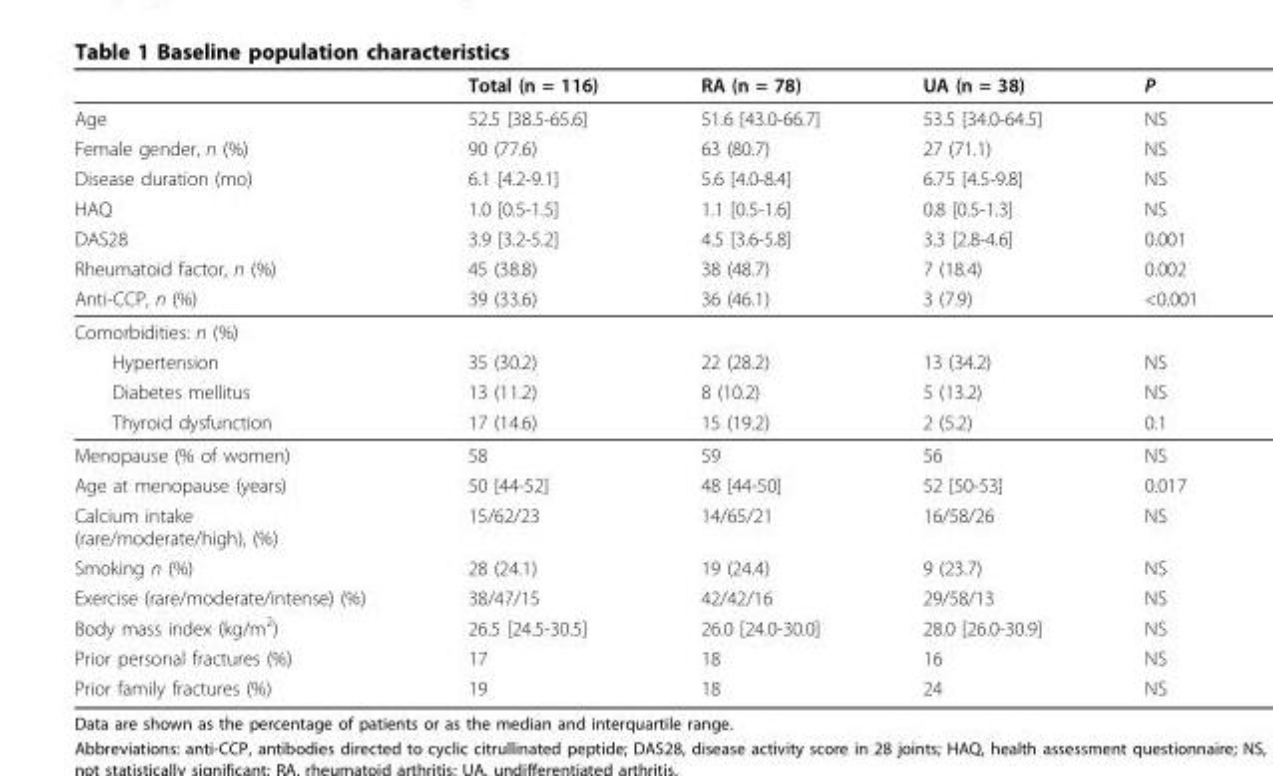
<table><thead><tr><td></td><td>Total (n = 116)</td><td>RA (n = 78)</td><td>UA (n = 38)</td><td>P</td></tr></thead><tbody><tr><td>Age</td><td>52.5 [38.5-65.6]</td><td>51.6 [43.0-66.7]</td><td>53.5 [34.0-64.5]</td><td>NS</td></tr><tr><td>Female gender, n (%)</td><td>90 (77.6)</td><td>63 (80.7)</td><td>27 (71.1)</td><td>NS</td></tr><tr><td>Disease duration (mo)</td><td>6.1 [4.2-9.1]</td><td>5.6 [4.0-8.4]</td><td>6.75 [4.5-9.8]</td><td>NS</td></tr><tr><td>HAQ</td><td>1.0 [0.5-1.5]</td><td>1.1 [0.5-1.6]</td><td>0.8 [0.5-1.3]</td><td>NS</td></tr><tr><td>DAS28</td><td>3.9 [3.2-5.2]</td><td>4.5 [3.6-5.8]</td><td>3.3 [2.8-4.6]</td><td>0.001</td></tr><tr><td>Rheumatoid factor, n (%)</td><td>45 (38.8)</td><td>38 (48.7)</td><td>7 (18.4)</td><td>0.002</td></tr><tr><td>Anti-CCP, n (%)</td><td>39 (33.6)</td><td>36 (46.1)</td><td>3 (7.9)</td><td>&lt;0.001</td></tr><tr><td colspan="5">Comorbidities: n (%)</td></tr><tr><td>Hypertension</td><td>35 (30.2)</td><td>22 (28.2)</td><td>13 (34.2)</td><td>NS</td></tr><tr><td>Diabetes mellitus</td><td>13 (11.2)</td><td>8 (10.2)</td><td>5 (13.2)</td><td>NS</td></tr><tr><td>Thyroid dysfunction</td><td>17 (14.6)</td><td>15 (19.2)</td><td>2 (5.2)</td><td>0.1</td></tr><tr><td>Menopause (% of women)</td><td>58</td><td>59</td><td>56</td><td>NS</td></tr><tr><td>Age at menopause (years)</td><td>50 [44-52]</td><td>48 [44-50]</td><td>52 [50-53]</td><td>0.017</td></tr><tr><td>Calcium intake (rare/moderate/high), (%)</td><td>15/62/23</td><td>14/65/21</td><td>16/58/26</td><td>NS</td></tr><tr><td>Smoking n (%)</td><td>28 (24.1)</td><td>19 (24.4)</td><td>9 (23.7)</td><td>NS</td></tr><tr><td>Exercise (rare/moderate/intense) (%)</td><td>38/47/15</td><td>42/42/16</td><td>29/58/13</td><td>NS</td></tr><tr><td>Body mass index (kg/m<sup>2</sup>)</td><td>26.5 [24.5-30.5]</td><td>26.0 [24.0-30.0]</td><td>28.0 [26.0-30.9]</td><td>NS</td></tr><tr><td>Prior personal fractures (%)</td><td>17</td><td>18</td><td>16</td><td>NS</td></tr><tr><td>Prior family fractures (%)</td><td>19</td><td>18</td><td>24</td><td>NS</td></tr></tbody></table>